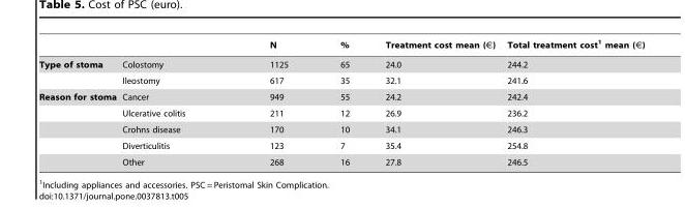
<table><thead><tr><td></td><td></td><td>N</td><td>%</td><td>Treatment cost mean (€)</td><td>Total treatment cost<sup>1</sup> mean (€)</td></tr></thead><tbody><tr><td rowspan="2">Type of stoma</td><td>Colostomy</td><td>1125</td><td>65</td><td>24.0</td><td>244.2</td></tr><tr><td>Ileostomy</td><td>617</td><td>35</td><td>32.1</td><td>241.6</td></tr><tr><td rowspan="5">Reason for stoma</td><td>Cancer</td><td>949</td><td>55</td><td>24.2</td><td>242.4</td></tr><tr><td>Ulcerative colitis</td><td>211</td><td>12</td><td>26.9</td><td>236.2</td></tr><tr><td>Crohns disease</td><td>170</td><td>10</td><td>34.1</td><td>246.3</td></tr><tr><td>Diverticulitis</td><td>123</td><td>7</td><td>35.4</td><td>254.8</td></tr><tr><td>Other</td><td>268</td><td>16</td><td>27.8</td><td>246.5</td></tr></tbody></table>